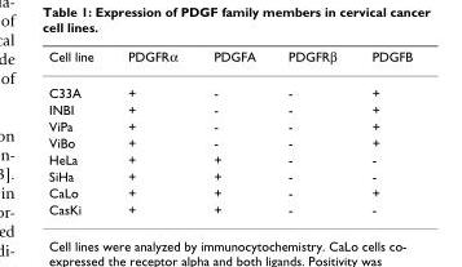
<table><thead><tr><td>Cell line</td><td>PDGFRα</td><td>PDGFA</td><td>PDGFRβ</td><td>PDGFB</td></tr></thead><tbody><tr><td>C33A</td><td>+</td><td>-</td><td>-</td><td>+</td></tr><tr><td>INBI</td><td>+</td><td>-</td><td>-</td><td>+</td></tr><tr><td>ViPa</td><td>+</td><td>-</td><td>-</td><td>+</td></tr><tr><td>ViBo</td><td>+</td><td>-</td><td>-</td><td>+</td></tr><tr><td>HeLa</td><td>+</td><td>+</td><td>-</td><td>-</td></tr><tr><td>SiHa</td><td>+</td><td>+</td><td>-</td><td>-</td></tr><tr><td>CaLo</td><td>+</td><td>+</td><td>-</td><td>+</td></tr><tr><td>CasKi</td><td>+</td><td>+</td><td>-</td><td>-</td></tr></tbody></table>